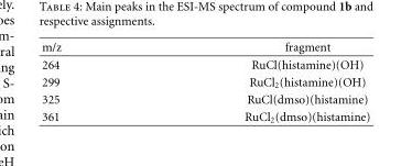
<table><thead><tr><td>m/z</td><td>fragment</td></tr></thead><tbody><tr><td>264</td><td>RuCl(histamine)(OH)</td></tr><tr><td>299</td><td>RuCl<sub>2</sub>(histamine)(OH)</td></tr><tr><td>325</td><td>RuCl(dmso)(histamine)</td></tr><tr><td>361</td><td>RuCl<sub>2</sub>(dmso)(histamine)</td></tr></tbody></table>